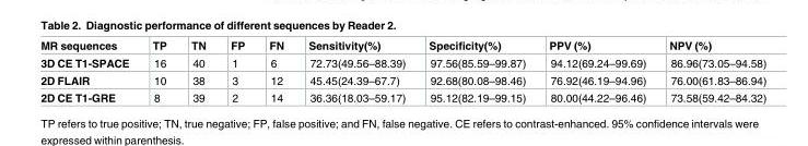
<table><thead><tr><td>MR sequences</td><td>TP</td><td>TN</td><td>FP</td><td>FN</td><td>Sensitivity(%)</td><td>Specificity(%)</td><td>PPV (%)</td><td>NPV (%)</td></tr></thead><tbody><tr><td>3D CE T1-SPACE</td><td>16</td><td>40</td><td>1</td><td>6</td><td>72.73(49.56–88.39)</td><td>97.56(85.59–99.87)</td><td>94.12(69.24–99.69)</td><td>86.96(73.05–94.58)</td></tr><tr><td>2D FLAIR</td><td>10</td><td>38</td><td>3</td><td>12</td><td>45.45(24.39–67.7)</td><td>92.68(80.08–98.46)</td><td>76.92(46.19–94.96)</td><td>76.00(61.83–86.94)</td></tr><tr><td>2D CE T1-GRE</td><td>8</td><td>39</td><td>2</td><td>14</td><td>36.36(18.03–59.17)</td><td>95.12(82.19–99.15)</td><td>80.00(44.22–96.46)</td><td>73.58(59.42–84.32)</td></tr></tbody></table>